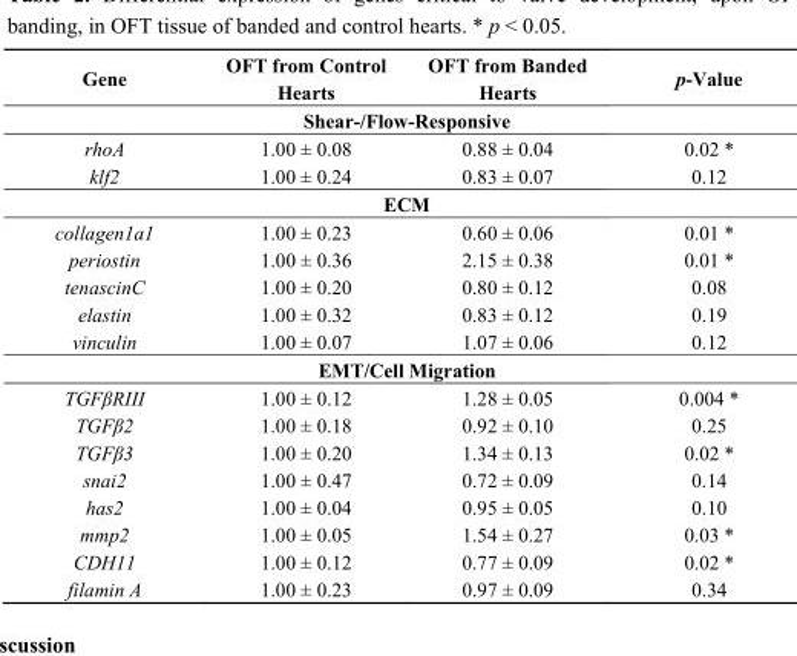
<table><thead><tr><td>Gene</td><td>OFT from Control Hearts</td><td>OFT from Banded Hearts</td><td>p-Value</td></tr></thead><tbody><tr><td colspan="4">Shear-/Flow-Responsive</td></tr><tr><td>rhoA</td><td>1.00 ± 0.08</td><td>0.88 ± 0.04</td><td>0.02 *</td></tr><tr><td>klf2</td><td>1.00 ± 0.24</td><td>0.83 ± 0.07</td><td>0.12</td></tr><tr><td colspan="4">ECM</td></tr><tr><td>collagen1a1</td><td>1.00 ± 0.23</td><td>0.60 ± 0.06</td><td>0.01 *</td></tr><tr><td>periostin</td><td>1.00 ± 0.36</td><td>2.15 ± 0.38</td><td>0.01 *</td></tr><tr><td>tenascinC</td><td>1.00 ± 0.20</td><td>0.80 ± 0.12</td><td>0.08</td></tr><tr><td>elastin</td><td>1.00 ± 0.32</td><td>0.83 ± 0.12</td><td>0.19</td></tr><tr><td>vinculin</td><td>1.00 ± 0.07</td><td>1.07 ± 0.06</td><td>0.12</td></tr><tr><td colspan="4">EMT/Cell Migration</td></tr><tr><td>TGFβRIII</td><td>1.00 ± 0.12</td><td>1.28 ± 0.05</td><td>0.004 *</td></tr><tr><td>TGFβ2</td><td>1.00 ± 0.18</td><td>0.92 ± 0.10</td><td>0.25</td></tr><tr><td>TGFβ3</td><td>1.00 ± 0.20</td><td>1.34 ± 0.13</td><td>0.02 *</td></tr><tr><td>snai2</td><td>1.00 ± 0.47</td><td>0.72 ± 0.09</td><td>0.14</td></tr><tr><td>has2</td><td>1.00 ± 0.04</td><td>0.95 ± 0.05</td><td>0.10</td></tr><tr><td>mmp2</td><td>1.00 ± 0.05</td><td>1.54 ± 0.27</td><td>0.03 *</td></tr><tr><td>CDH11</td><td>1.00 ± 0.12</td><td>0.77 ± 0.09</td><td>0.02 *</td></tr><tr><td>filamin A</td><td>1.00 ± 0.23</td><td>0.97 ± 0.09</td><td>0.34</td></tr></tbody></table>